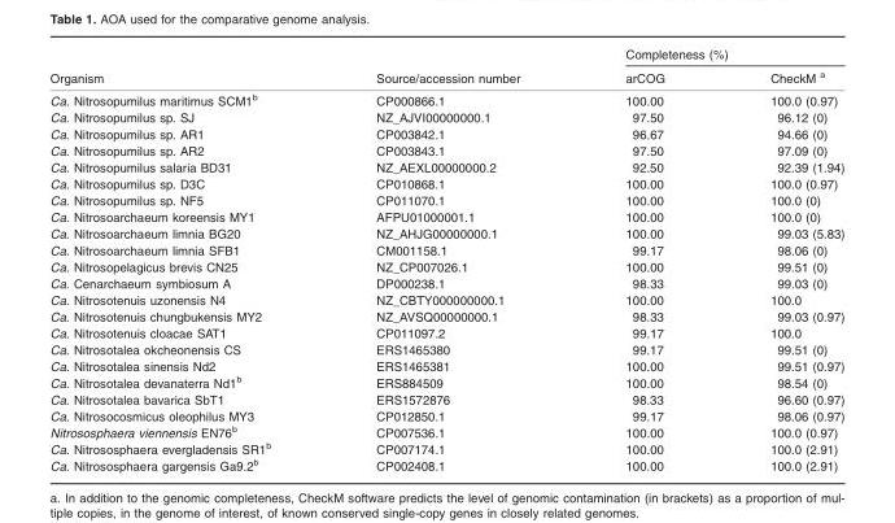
<table><thead><tr><td rowspan="2">Organism</td><td rowspan="2">Source/accession number</td><td colspan="2">Completeness (%)</td></tr><tr><td>arCOG</td><td>CheckM <sup>a</sup></td></tr></thead><tbody><tr><td>Ca. Nitrosopumilus maritimus SCM1<sup>b</sup></td><td>CP000866.1</td><td>100.00</td><td>100.0 (0.97)</td></tr><tr><td>Ca. Nitrosopumilus sp. SJ</td><td>NZ_AJVI00000000.1</td><td>97.50</td><td>96.12 (0)</td></tr><tr><td>Ca. Nitrosopumilus sp. AR1</td><td>CP003842.1</td><td>96.67</td><td>94.66 (0)</td></tr><tr><td>Ca. Nitrosopumilus sp. AR2</td><td>CP003843.1</td><td>97.50</td><td>97.09 (0)</td></tr><tr><td>Ca. Nitrosopumilus salaria BD31</td><td>NZ_AEXL00000000.2</td><td>92.50</td><td>92.39 (1.94)</td></tr><tr><td>Ca. Nitrosopumilus sp. D3C</td><td>CP010868.1</td><td>100.00</td><td>100.0 (0.97)</td></tr><tr><td>Ca. Nitrosopumilus sp. NF5</td><td>CP011070.1</td><td>100.00</td><td>100.0 (0)</td></tr><tr><td>Ca. Nitrosoarchaeum koreensis MY1</td><td>AFPU01000001.1</td><td>100.00</td><td>100.0 (0)</td></tr><tr><td>Ca. Nitrosoarchaeum limnia BG20</td><td>NZ_AHJG00000000.1</td><td>100.00</td><td>99.03 (5.83)</td></tr><tr><td>Ca. Nitrosoarchaeum limnia SFB1</td><td>CM001158.1</td><td>99.17</td><td>98.06 (0)</td></tr><tr><td>Ca. Nitrosopelagicus brevis CN25</td><td>NZ_CP007026.1</td><td>100.00</td><td>99.51 (0)</td></tr><tr><td>Ca. Cenarchaeum symbiosum A</td><td>DP000238.1</td><td>98.33</td><td>99.03 (0)</td></tr><tr><td>Ca. Nitrosotenuis uzonensis N4</td><td>NZ_CBTY000000000.1</td><td>100.00</td><td>100.0</td></tr><tr><td>Ca. Nitrosotenuis chungbukensis MY2</td><td>NZ_AVSQ00000000.1</td><td>98.33</td><td>99.03 (0.97)</td></tr><tr><td>Ca. Nitrosotenuis cloacae SAT1</td><td>CP011097.2</td><td>99.17</td><td>100.0</td></tr><tr><td>Ca. Nitrosotalea okcheonensis CS</td><td>ERS1465380</td><td>99.17</td><td>99.51 (0)</td></tr><tr><td>Ca. Nitrosotalea sinensis Nd2</td><td>ERS1465381</td><td>100.00</td><td>99.51 (0.97)</td></tr><tr><td>Ca. Nitrosotalea devanaterra Nd1<sup>b</sup></td><td>ERS884509</td><td>100.00</td><td>98.54 (0)</td></tr><tr><td>Ca. Nitrosotalea bavarica SbT1</td><td>ERS1572876</td><td>98.33</td><td>96.60 (0.97)</td></tr><tr><td>Ca. Nitrosocosmicus oleophilus MY3</td><td>CP012850.1</td><td>99.17</td><td>98.06 (0.97)</td></tr><tr><td>Nitrososphaera viennensis EN76<sup>b</sup></td><td>CP007536.1</td><td>100.00</td><td>100.0 (0.97)</td></tr><tr><td>Ca. Nitrososphaera evergladensis SR1<sup>b</sup></td><td>CP007174.1</td><td>100.00</td><td>100.0 (2.91)</td></tr><tr><td>Ca. Nitrososphaera gargensis Ga9.2<sup>b</sup></td><td>CP002408.1</td><td>100.00</td><td>100.0 (2.91)</td></tr></tbody></table>